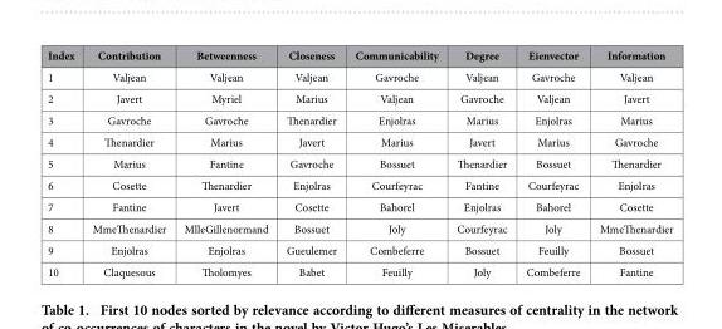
<table><thead><tr><td>Index</td><td>Contribution</td><td>Betweenness</td><td>Closeness</td><td>Communicability</td><td>Degree</td><td>Eienvector</td><td>Information</td></tr></thead><tbody><tr><td>1</td><td>Valjean</td><td>Valjean</td><td>Valjean</td><td>Gavroche</td><td>Valjean</td><td>Gavroche</td><td>Valjean</td></tr><tr><td>2</td><td>Javert</td><td>Myriel</td><td>Marius</td><td>Valjean</td><td>Gavroche</td><td>Valjean</td><td>Javert</td></tr><tr><td>3</td><td>Gavroche</td><td>Gavroche</td><td>Thenardier</td><td>Enjolras</td><td>Marius</td><td>Enjolras</td><td>Marius</td></tr><tr><td>4</td><td>Thenardier</td><td>Marius</td><td>Javert</td><td>Marius</td><td>Javert</td><td>Marius</td><td>Gavroche</td></tr><tr><td>5</td><td>Marius</td><td>Fantine</td><td>Gavroche</td><td>Bossuet</td><td>Thenardier</td><td>Bossuet</td><td>Thenardier</td></tr><tr><td>6</td><td>Cosette</td><td>Thenardier</td><td>Enjolras</td><td>Courfeyrac</td><td>Fantine</td><td>Courfeyrac</td><td>Enjolras</td></tr><tr><td>7</td><td>Fantine</td><td>Javert</td><td>Cosette</td><td>Bahorel</td><td>Enjolras</td><td>Bahorel</td><td>Cosette</td></tr><tr><td>8</td><td>MmeThenardier</td><td>MlleGillenormand</td><td>Bossuet</td><td>Joly</td><td>Courfeyrac</td><td>Joly</td><td>MmeThenardier</td></tr><tr><td>9</td><td>Enjolras</td><td>Enjolras</td><td>Gueulemer</td><td>Combeferre</td><td>Bossuet</td><td>Feuilly</td><td>Bossuet</td></tr><tr><td>10</td><td>Claquesous</td><td>Tholomyes</td><td>Babet</td><td>Feuilly</td><td>Joly</td><td>Combeferre</td><td>Fantine</td></tr></tbody></table>